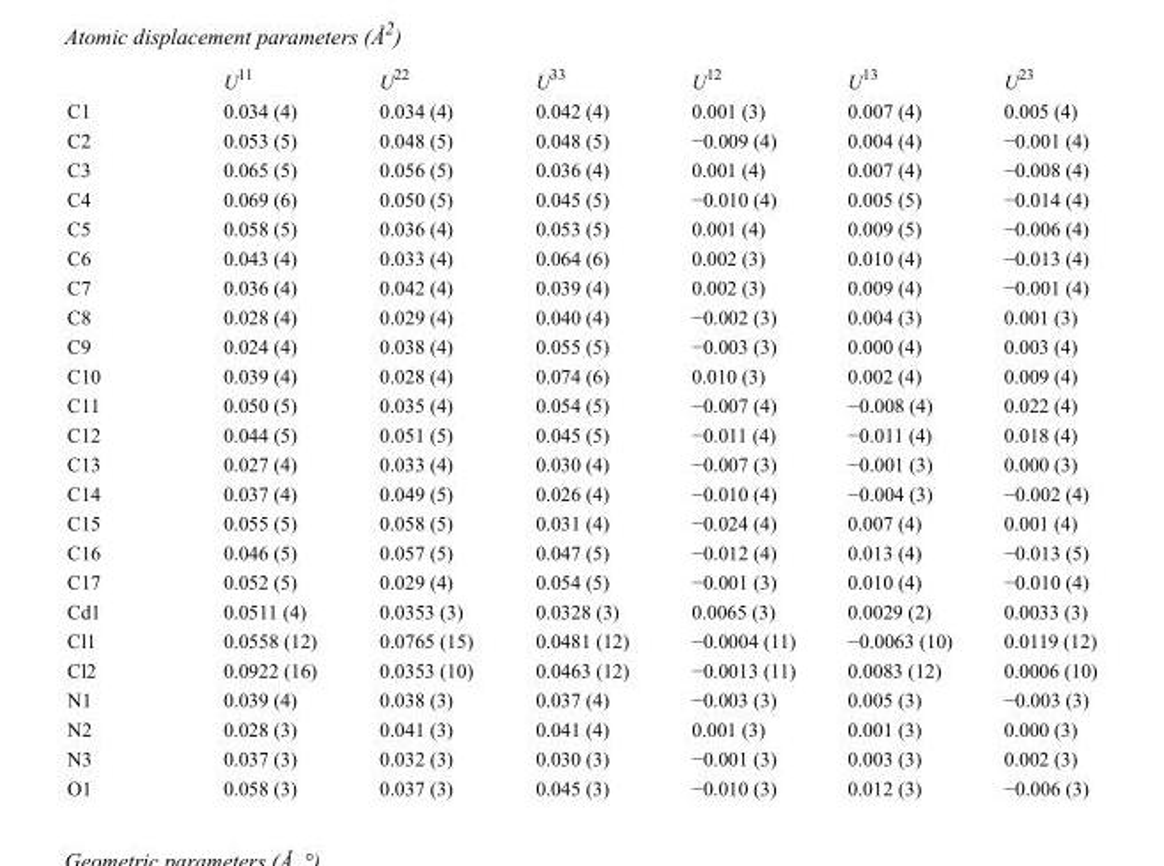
<table><thead><tr><td></td><td>U<sup>11</sup></td><td>U<sup>22</sup></td><td>U<sup>33</sup></td><td>U<sup>12</sup></td><td>U<sup>13</sup></td><td>U<sup>23</sup></td></tr></thead><tbody><tr><td>C1</td><td>0.034 (4)</td><td>0.034 (4)</td><td>0.042 (4)</td><td>0.001 (3)</td><td>0.007 (4)</td><td>0.005 (4)</td></tr><tr><td>C2</td><td>0.053 (5)</td><td>0.048 (5)</td><td>0.048 (5)</td><td>−0.009 (4)</td><td>0.004 (4)</td><td>−0.001 (4)</td></tr><tr><td>C3</td><td>0.065 (5)</td><td>0.056 (5)</td><td>0.036 (4)</td><td>0.001 (4)</td><td>0.007 (4)</td><td>−0.008 (4)</td></tr><tr><td>C4</td><td>0.069 (6)</td><td>0.050 (5)</td><td>0.045 (5)</td><td>−0.010 (4)</td><td>0.005 (5)</td><td>−0.014 (4)</td></tr><tr><td>C5</td><td>0.058 (5)</td><td>0.036 (4)</td><td>0.053 (5)</td><td>0.001 (4)</td><td>0.009 (5)</td><td>−0.006 (4)</td></tr><tr><td>C6</td><td>0.043 (4)</td><td>0.033 (4)</td><td>0.064 (6)</td><td>0.002 (3)</td><td>0.010 (4)</td><td>−0.013 (4)</td></tr><tr><td>C7</td><td>0.036 (4)</td><td>0.042 (4)</td><td>0.039 (4)</td><td>0.002 (3)</td><td>0.009 (4)</td><td>−0.001 (4)</td></tr><tr><td>C8</td><td>0.028 (4)</td><td>0.029 (4)</td><td>0.040 (4)</td><td>−0.002 (3)</td><td>0.004 (3)</td><td>0.001 (3)</td></tr><tr><td>C9</td><td>0.024 (4)</td><td>0.038 (4)</td><td>0.055 (5)</td><td>−0.003 (3)</td><td>0.000 (4)</td><td>0.003 (4)</td></tr><tr><td>C10</td><td>0.039 (4)</td><td>0.028 (4)</td><td>0.074 (6)</td><td>0.010 (3)</td><td>0.002 (4)</td><td>0.009 (4)</td></tr><tr><td>C11</td><td>0.050 (5)</td><td>0.035 (4)</td><td>0.054 (5)</td><td>−0.007 (4)</td><td>−0.008 (4)</td><td>0.022 (4)</td></tr><tr><td>C12</td><td>0.044 (5)</td><td>0.051 (5)</td><td>0.045 (5)</td><td>−0.011 (4)</td><td>−0.011 (4)</td><td>0.018 (4)</td></tr><tr><td>C13</td><td>0.027 (4)</td><td>0.033 (4)</td><td>0.030 (4)</td><td>−0.007 (3)</td><td>−0.001 (3)</td><td>0.000 (3)</td></tr><tr><td>C14</td><td>0.037 (4)</td><td>0.049 (5)</td><td>0.026 (4)</td><td>−0.010 (4)</td><td>−0.004 (3)</td><td>−0.002 (4)</td></tr><tr><td>C15</td><td>0.055 (5)</td><td>0.058 (5)</td><td>0.031 (4)</td><td>−0.024 (4)</td><td>0.007 (4)</td><td>0.001 (4)</td></tr><tr><td>C16</td><td>0.046 (5)</td><td>0.057 (5)</td><td>0.047 (5)</td><td>−0.012 (4)</td><td>0.013 (4)</td><td>−0.013 (5)</td></tr><tr><td>C17</td><td>0.052 (5)</td><td>0.029 (4)</td><td>0.054 (5)</td><td>−0.001 (3)</td><td>0.010 (4)</td><td>−0.010 (4)</td></tr><tr><td>Cd1</td><td>0.0511 (4)</td><td>0.0353 (3)</td><td>0.0328 (3)</td><td>0.0065 (3)</td><td>0.0029 (2)</td><td>0.0033 (3)</td></tr><tr><td>Cl1</td><td>0.0558 (12)</td><td>0.0765 (15)</td><td>0.0481 (12)</td><td>−0.0004 (11)</td><td>−0.0063 (10)</td><td>0.0119 (12)</td></tr><tr><td>Cl2</td><td>0.0922 (16)</td><td>0.0353 (10)</td><td>0.0463 (12)</td><td>−0.0013 (11)</td><td>0.0083 (12)</td><td>0.0006 (10)</td></tr><tr><td>N1</td><td>0.039 (4)</td><td>0.038 (3)</td><td>0.037 (4)</td><td>−0.003 (3)</td><td>0.005 (3)</td><td>−0.003 (3)</td></tr><tr><td>N2</td><td>0.028 (3)</td><td>0.041 (3)</td><td>0.041 (4)</td><td>0.001 (3)</td><td>0.001 (3)</td><td>0.000 (3)</td></tr><tr><td>N3</td><td>0.037 (3)</td><td>0.032 (3)</td><td>0.030 (3)</td><td>−0.001 (3)</td><td>0.003 (3)</td><td>0.002 (3)</td></tr><tr><td>O1</td><td>0.058 (3)</td><td>0.037 (3)</td><td>0.045 (3)</td><td>−0.010 (3)</td><td>0.012 (3)</td><td>−0.006 (3)</td></tr></tbody></table>